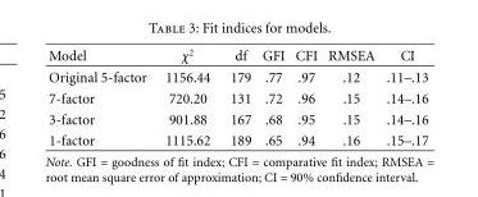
<table><thead><tr><td>Model</td><td>χ<sup>2</sup></td><td>df</td><td>GFI</td><td>CFI</td><td>RMSEA</td><td>CI</td></tr></thead><tbody><tr><td>Original 5-factor</td><td>1156.44</td><td>179</td><td>.77</td><td>.97</td><td>.12</td><td>.11–.13</td></tr><tr><td>7-factor</td><td>720.20</td><td>131</td><td>.72</td><td>.96</td><td>.15</td><td>.14–.16</td></tr><tr><td>3-factor</td><td>901.88</td><td>167</td><td>.68</td><td>.95</td><td>.15</td><td>.14–.16</td></tr><tr><td>1-factor</td><td>1115.62</td><td>189</td><td>.65</td><td>.94</td><td>.16</td><td>.15–.17</td></tr></tbody></table>